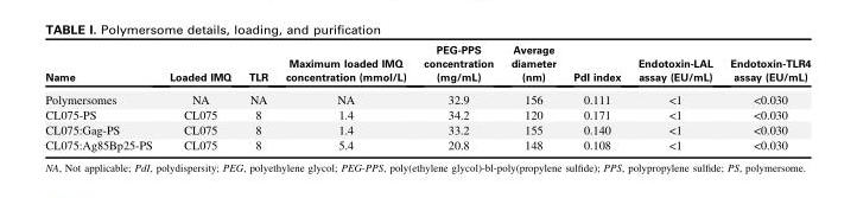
<table><thead><tr><td>Name</td><td>Loaded IMQ</td><td>TLR</td><td>Maximum loaded IMQ concentration (mmol/L)</td><td>PEG-PPS concentration (mg/mL)</td><td>Average diameter (nm)</td><td>PdI index</td><td>Endotoxin-LAL assay (EU/mL)</td><td>Endotoxin-TLR4 assay (EU/mL)</td></tr></thead><tbody><tr><td>Polymersomes</td><td>NA</td><td>NA</td><td>NA</td><td>32.9</td><td>156</td><td>0.111</td><td>&lt;1</td><td>&lt;0.030</td></tr><tr><td>CL075-PS</td><td>CL075</td><td>8</td><td>1.4</td><td>34.2</td><td>120</td><td>0.171</td><td>&lt;1</td><td>&lt;0.030</td></tr><tr><td>CL075:Gag-PS</td><td>CL075</td><td>8</td><td>1.4</td><td>33.2</td><td>155</td><td>0.140</td><td>&lt;1</td><td>&lt;0.030</td></tr><tr><td>CL075:Ag85Bp25-PS</td><td>CL075</td><td>8</td><td>5.4</td><td>20.8</td><td>148</td><td>0.108</td><td>&lt;1</td><td>&lt;0.030</td></tr></tbody></table>